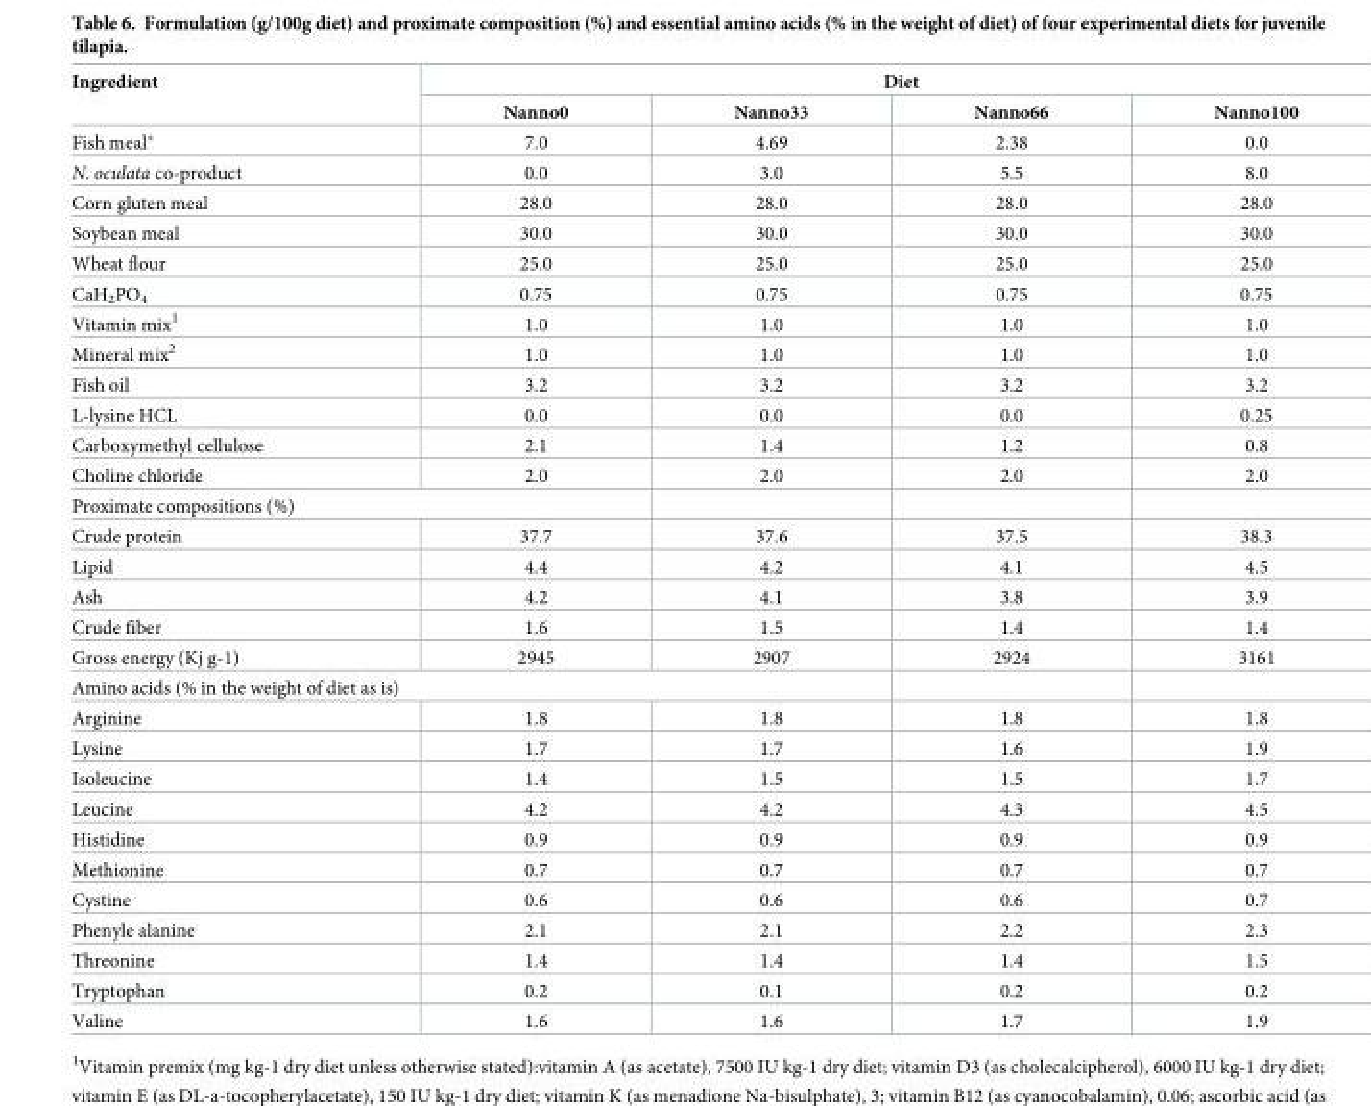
<table><thead><tr><td rowspan="2">Ingredient</td><td colspan="4">Diet</td></tr><tr><td>Nanno0</td><td>Nanno33</td><td>Nanno66</td><td>Nanno100</td></tr></thead><tbody><tr><td>Fish meal*</td><td>7.0</td><td>4.69</td><td>2.38</td><td>0.0</td></tr><tr><td>N. oculata co-product</td><td>0.0</td><td>3.0</td><td>5.5</td><td>8.0</td></tr><tr><td>Corn gluten meal</td><td>28.0</td><td>28.0</td><td>28.0</td><td>28.0</td></tr><tr><td>Soybean meal</td><td>30.0</td><td>30.0</td><td>30.0</td><td>30.0</td></tr><tr><td>Wheat flour</td><td>25.0</td><td>25.0</td><td>25.0</td><td>25.0</td></tr><tr><td>CaH<sub>2</sub>PO<sub>4</sub></td><td>0.75</td><td>0.75</td><td>0.75</td><td>0.75</td></tr><tr><td>Vitamin mix<sup>1</sup></td><td>1.0</td><td>1.0</td><td>1.0</td><td>1.0</td></tr><tr><td>Mineral mix<sup>2</sup></td><td>1.0</td><td>1.0</td><td>1.0</td><td>1.0</td></tr><tr><td>Fish oil</td><td>3.2</td><td>3.2</td><td>3.2</td><td>3.2</td></tr><tr><td>L-lysine HCL</td><td>0.0</td><td>0.0</td><td>0.0</td><td>0.25</td></tr><tr><td>Carboxymethyl cellulose</td><td>2.1</td><td>1.4</td><td>1.2</td><td>0.8</td></tr><tr><td>Choline chloride</td><td>2.0</td><td>2.0</td><td>2.0</td><td>2.0</td></tr><tr><td colspan="5">Proximate compositions (%)</td></tr><tr><td>Crude protein</td><td>37.7</td><td>37.6</td><td>37.5</td><td>38.3</td></tr><tr><td>Lipid</td><td>4.4</td><td>4.2</td><td>4.1</td><td>4.5</td></tr><tr><td>Ash</td><td>4.2</td><td>4.1</td><td>3.8</td><td>3.9</td></tr><tr><td>Crude fiber</td><td>1.6</td><td>1.5</td><td>1.4</td><td>1.4</td></tr><tr><td>Gross energy (Kj g-1)</td><td>2945</td><td>2907</td><td>2924</td><td>3161</td></tr><tr><td colspan="5">Amino acids (% in the weight of diet as is)</td></tr><tr><td>Arginine</td><td>1.8</td><td>1.8</td><td>1.8</td><td>1.8</td></tr><tr><td>Lysine</td><td>1.7</td><td>1.7</td><td>1.6</td><td>1.9</td></tr><tr><td>Isoleucine</td><td>1.4</td><td>1.5</td><td>1.5</td><td>1.7</td></tr><tr><td>Leucine</td><td>4.2</td><td>4.2</td><td>4.3</td><td>4.5</td></tr><tr><td>Histidine</td><td>0.9</td><td>0.9</td><td>0.9</td><td>0.9</td></tr><tr><td>Methionine</td><td>0.7</td><td>0.7</td><td>0.7</td><td>0.7</td></tr><tr><td>Cystine</td><td>0.6</td><td>0.6</td><td>0.6</td><td>0.7</td></tr><tr><td>Phenyle alanine</td><td>2.1</td><td>2.1</td><td>2.2</td><td>2.3</td></tr><tr><td>Threonine</td><td>1.4</td><td>1.4</td><td>1.4</td><td>1.5</td></tr><tr><td>Tryptophan</td><td>0.2</td><td>0.1</td><td>0.2</td><td>0.2</td></tr><tr><td>Valine</td><td>1.6</td><td>1.6</td><td>1.7</td><td>1.9</td></tr></tbody></table>